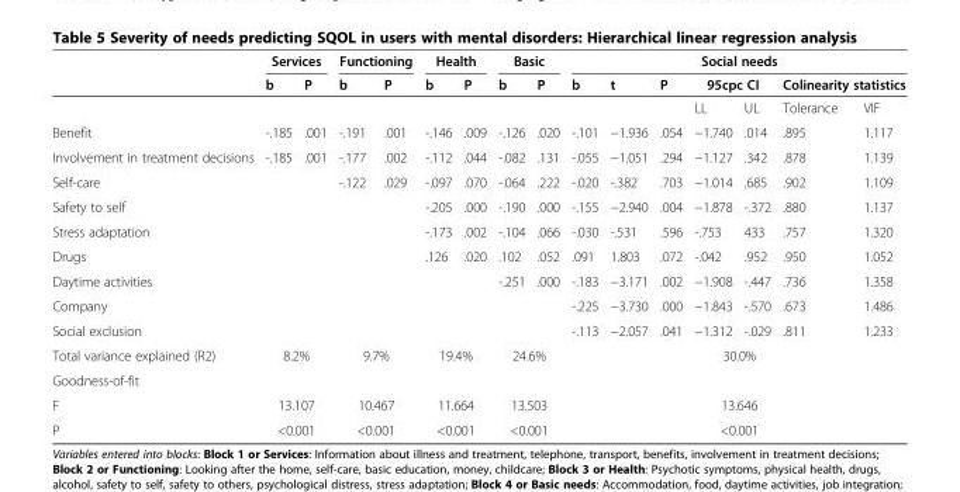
<table><thead><tr><td rowspan="3"></td><td colspan="2">Services</td><td colspan="2">Functioning</td><td colspan="2">Health</td><td colspan="2">Basic</td><td colspan="7">Social needs</td></tr><tr><td rowspan="2">b</td><td rowspan="2">P</td><td rowspan="2">b</td><td rowspan="2">P</td><td rowspan="2">b</td><td rowspan="2">P</td><td rowspan="2">b</td><td rowspan="2">P</td><td rowspan="2">b</td><td rowspan="2">t</td><td rowspan="2">P</td><td colspan="2">95cpc CI</td><td colspan="2">Colinearity statistics</td></tr><tr><td>LL</td><td>UL</td><td>Tolerance</td><td>VIF</td></tr></thead><tbody><tr><td>Benefit</td><td>-.185</td><td>.001</td><td>-.191</td><td>.001</td><td>-.146</td><td>.009</td><td>-.126</td><td>.020</td><td>-.101</td><td>−1.936</td><td>.054</td><td>−1.740</td><td>.014</td><td>.895</td><td>1.117</td></tr><tr><td>Involvement in treatment decisions</td><td>-.185</td><td>.001</td><td>-.177</td><td>.002</td><td>-.112</td><td>.044</td><td>-.082</td><td>.131</td><td>-.055</td><td>−1.051</td><td>.294</td><td>−1.127</td><td>.342</td><td>.878</td><td>1.139</td></tr><tr><td>Self-care</td><td></td><td></td><td>-.122</td><td>.029</td><td>-.097</td><td>.070</td><td>-.064</td><td>.222</td><td>-.020</td><td>-.382</td><td>.703</td><td>−1.014</td><td>.685</td><td>.902</td><td>1.109</td></tr><tr><td>Safety to self</td><td></td><td></td><td></td><td></td><td>-.205</td><td>.000</td><td>-.190</td><td>.000</td><td>-.155</td><td>−2.940</td><td>.004</td><td>−1.878</td><td>-.372</td><td>.880</td><td>1.137</td></tr><tr><td>Stress adaptation</td><td></td><td></td><td></td><td></td><td>-.173</td><td>.002</td><td>-.104</td><td>.066</td><td>-.030</td><td>-.531</td><td>.596</td><td>-.753</td><td>433</td><td>.757</td><td>1.320</td></tr><tr><td>Drugs</td><td></td><td></td><td></td><td></td><td>.126</td><td>.020</td><td>.102</td><td>.052</td><td>.091</td><td>1.803</td><td>.072</td><td>-.042</td><td>.952</td><td>.950</td><td>1.052</td></tr><tr><td>Daytime activities</td><td></td><td></td><td></td><td></td><td></td><td></td><td>-.251</td><td>.000</td><td>-.183</td><td>−3.171</td><td>.002</td><td>−1.908</td><td>-.447</td><td>.736</td><td>1.358</td></tr><tr><td>Company</td><td></td><td></td><td></td><td></td><td></td><td></td><td></td><td></td><td>-.225</td><td>−3.730</td><td>.000</td><td>−1.843</td><td>-.570</td><td>.673</td><td>1.486</td></tr><tr><td>Social exclusion</td><td></td><td></td><td></td><td></td><td></td><td></td><td></td><td></td><td>-.113</td><td>−2.057</td><td>.041</td><td>−1.312</td><td>-.029</td><td>.811</td><td>1.233</td></tr><tr><td>Total variance explained (R2)</td><td colspan="2">8.2%</td><td colspan="2">9.7%</td><td colspan="2">19.4%</td><td colspan="2">24.6%</td><td colspan="7">30.0%</td></tr><tr><td colspan="16">Goodness-of-fit</td></tr><tr><td>F</td><td colspan="2">13.107</td><td colspan="2">10.467</td><td colspan="2">11.664</td><td colspan="2">13.503</td><td colspan="7">13.646</td></tr><tr><td>P</td><td colspan="2">&lt;0.001</td><td colspan="2">&lt;0.001</td><td colspan="2">&lt;0.001</td><td colspan="2">&lt;0.001</td><td colspan="7">&lt;0.001</td></tr></tbody></table>